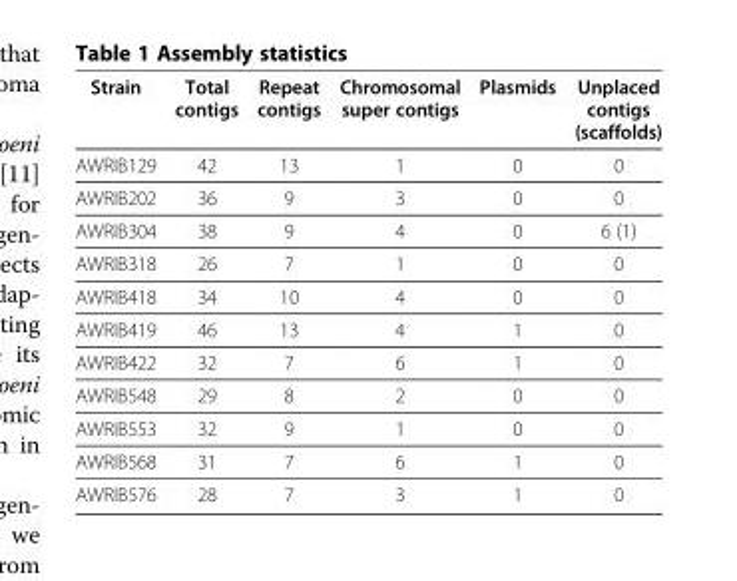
<table><thead><tr><td>Strain</td><td>Total contigs</td><td>Repeat contigs</td><td>Chromosomal super contigs</td><td>Plasmids</td><td>Unplaced contigs (scaffolds)</td></tr></thead><tbody><tr><td>AWRIB129</td><td>42</td><td>13</td><td>1</td><td>0</td><td>0</td></tr><tr><td>AWRIB202</td><td>36</td><td>9</td><td>3</td><td>0</td><td>0</td></tr><tr><td>AWRIB304</td><td>38</td><td>9</td><td>4</td><td>0</td><td>6 (1)</td></tr><tr><td>AWRIB318</td><td>26</td><td>7</td><td>1</td><td>0</td><td>0</td></tr><tr><td>AWRIB418</td><td>34</td><td>10</td><td>4</td><td>0</td><td>0</td></tr><tr><td>AWRIB419</td><td>46</td><td>13</td><td>4</td><td>1</td><td>0</td></tr><tr><td>AWRIB422</td><td>32</td><td>7</td><td>6</td><td>1</td><td>0</td></tr><tr><td>AWRIB548</td><td>29</td><td>8</td><td>2</td><td>0</td><td>0</td></tr><tr><td>AWRIB553</td><td>32</td><td>9</td><td>1</td><td>0</td><td>0</td></tr><tr><td>AWRIB568</td><td>31</td><td>7</td><td>6</td><td>1</td><td>0</td></tr><tr><td>AWRIB576</td><td>28</td><td>7</td><td>3</td><td>1</td><td>0</td></tr></tbody></table>